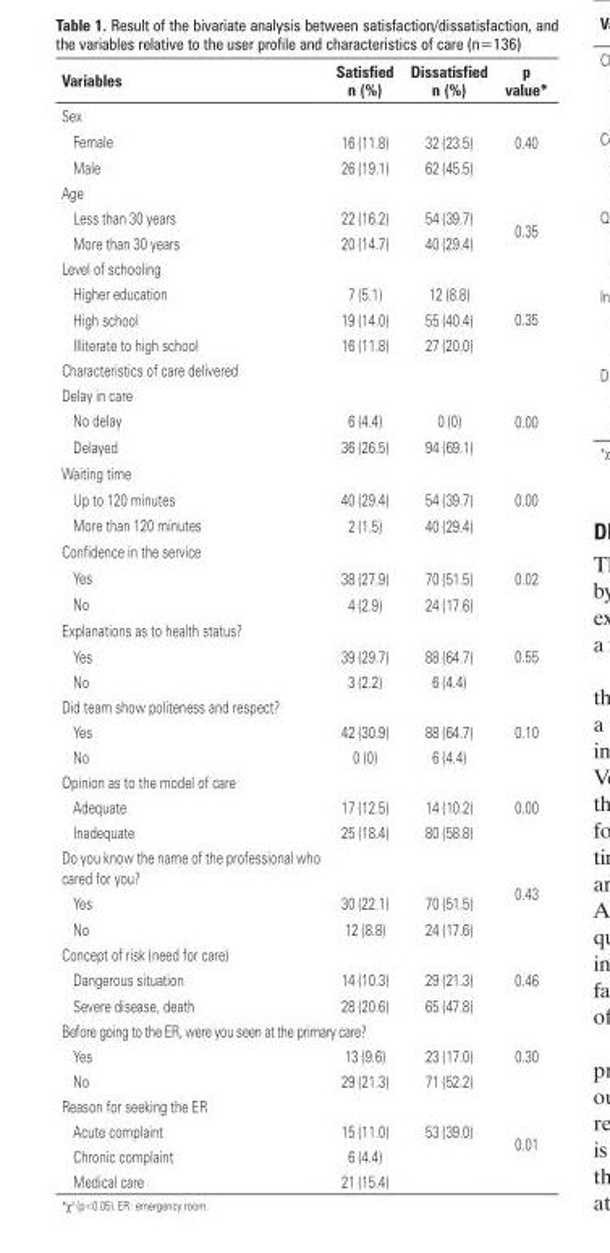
<table><thead><tr><td>Variables</td><td>satisfied n (%)</td><td>dissatisfied n (%)</td><td>p value*</td></tr></thead><tbody><tr><td colspan="4">Sex</td></tr><tr><td>Female</td><td>16 (11.8)</td><td>32 (23.5)</td><td>0.40</td></tr><tr><td>Male</td><td>26 (19.1)</td><td>62 (45.5)</td><td></td></tr><tr><td colspan="4">Age</td></tr><tr><td>Less than 30 years</td><td>22 (16.2)</td><td>54 (39.7)</td><td rowspan="2">0.35</td></tr><tr><td>More than 30 years</td><td>20 (14.7)</td><td>40 (29.4)</td></tr><tr><td colspan="4">Level of schooling</td></tr><tr><td>Higher education</td><td>7 (5.1)</td><td>12 (8.8)</td><td rowspan="3">0.35</td></tr><tr><td>High school</td><td>19 (14.0)</td><td>55 (40.4)</td></tr><tr><td>Illiterate to high school</td><td>16 (11.8)</td><td>27 (20.0)</td></tr><tr><td colspan="4">Characteristics of care delivered</td></tr><tr><td colspan="3">Delay in care</td><td rowspan="3">0.00</td></tr><tr><td>No delay</td><td>6 (4.4)</td><td>0 (0)</td></tr><tr><td>Delayed</td><td>36 (26.5)</td><td>94 (69.1)</td></tr><tr><td colspan="3">Waiting time</td><td rowspan="3">0.00</td></tr><tr><td>Up to 120 minutes</td><td>40 (29.4)</td><td>54 (39.7)</td></tr><tr><td>More than 120 minutes</td><td>2 (1.5)</td><td>40 (29.4)</td></tr><tr><td colspan="3">Confidence in the service</td><td rowspan="3">0.02</td></tr><tr><td>Yes</td><td>38 (27.9)</td><td>70 (51.5)</td></tr><tr><td>No</td><td>4 (2.9)</td><td>24 (17.6)</td></tr><tr><td colspan="3">Explanations as to health status?</td><td rowspan="3">0.55</td></tr><tr><td>Yes</td><td>39 (29.7)</td><td>88 (64.7)</td></tr><tr><td>No</td><td>3 (2.2)</td><td>6 (4.4)</td></tr><tr><td colspan="3">Did team show politeness and respect?</td><td rowspan="3">0.10</td></tr><tr><td>Yes</td><td>42 (30.9)</td><td>88 (64.7)</td></tr><tr><td>No</td><td>0 (0)</td><td>6 (4.4)</td></tr><tr><td colspan="3">Opinion as to the model of care</td><td rowspan="3">0.00</td></tr><tr><td>Adequate</td><td>17 (12.5)</td><td>14 (10.2)</td></tr><tr><td>Inadequate</td><td>25 (18.4)</td><td>80 (58.8)</td></tr><tr><td colspan="3">Do you know the name of the professional who cared for you?</td><td rowspan="3">0.43</td></tr><tr><td>Yes</td><td>30 (22.1)</td><td>70 (51.5)</td></tr><tr><td>No</td><td>12 (8.8)</td><td>24 (17.6)</td></tr><tr><td colspan="3">Concept of risk (need for care)</td><td rowspan="3">0.46</td></tr><tr><td>Dangerous situation</td><td>14 (10.3)</td><td>29 (21.3)</td></tr><tr><td>Severe disease, death</td><td>28 (20.6)</td><td>65 (47.8)</td></tr><tr><td colspan="3">Before going to the ER, were you seen at the primary care?</td><td rowspan="3">0.30</td></tr><tr><td>Yes</td><td>13 (9.6)</td><td>23 (17.0)</td></tr><tr><td>No</td><td>29 (21.3)</td><td>71 (52.2)</td></tr><tr><td colspan="3">Reason for seeking the ER</td><td rowspan="4">0.01</td></tr><tr><td>Acute complaint</td><td>15 (11.0)</td><td>53 (39.0)</td></tr><tr><td>Chronic complaint</td><td>6 (4.4)</td><td></td></tr><tr><td>Medical care</td><td>21 (15.4)</td><td></td></tr></tbody></table>